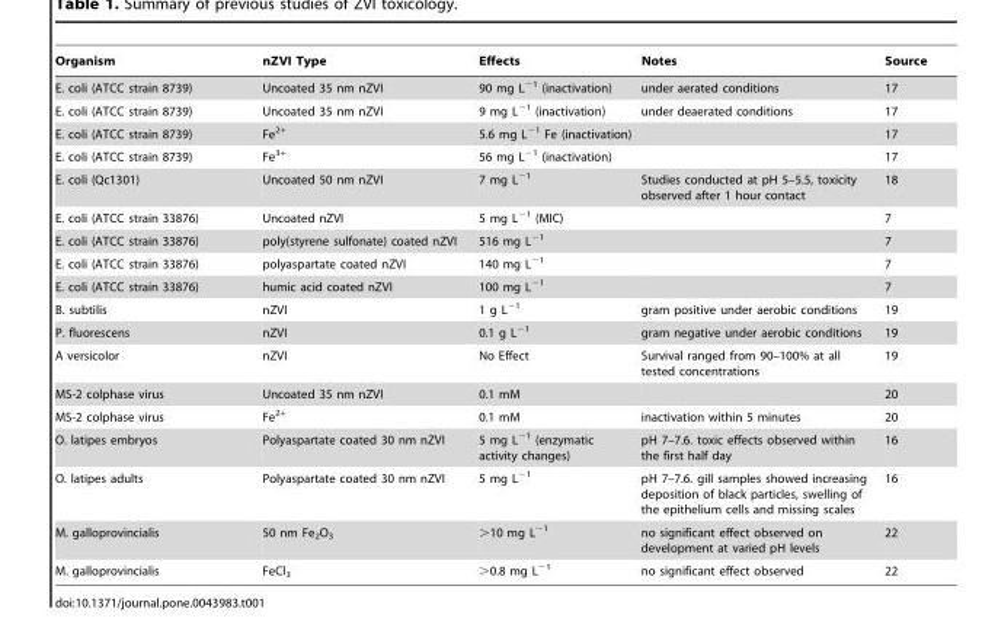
<table><thead><tr><td>Organism</td><td>nZVI Type</td><td>Effects</td><td>Notes</td><td>Source</td></tr></thead><tbody><tr><td>E. coli (ATCC strain 8739)</td><td>Uncoated 35 nm nZVI</td><td>90 mg L<sup>−1</sup> (inactivation)</td><td>under aerated conditions</td><td>17</td></tr><tr><td>E. coli (ATCC strain 8739)</td><td>Uncoated 35 nm nZVI</td><td>9 mg L<sup>−1</sup> (inactivation)</td><td>under deaerated conditions</td><td>17</td></tr><tr><td>E. coli (ATCC strain 8739)</td><td>Fe<sup>2+</sup></td><td>5.6 mg L<sup>−1</sup> Fe (inactivation)</td><td></td><td>17</td></tr><tr><td>E. coli (ATCC strain 8739)</td><td>Fe<sup>3+</sup></td><td>56 mg L<sup>−1</sup> (inactivation)</td><td></td><td>17</td></tr><tr><td>E. coli (Qc1301)</td><td>Uncoated 50 nm nZVI</td><td>7 mg L<sup>−1</sup></td><td>Studies conducted at pH 5–5.5, toxicity observed after 1 hour contact</td><td>18</td></tr><tr><td>E. coli (ATCC strain 33876)</td><td>Uncoated nZVI</td><td>5 mg L<sup>−1</sup> (MIC)</td><td></td><td>7</td></tr><tr><td>E. coli (ATCC strain 33876)</td><td>poly(styrene sulfonate) coated nZVI</td><td>516 mg L<sup>−1</sup></td><td></td><td>7</td></tr><tr><td>E. coli (ATCC strain 33876)</td><td>polyaspartate coated nZVI</td><td>140 mg L<sup>−1</sup></td><td></td><td>7</td></tr><tr><td>E. coli (ATCC strain 33876)</td><td>humic acid coated nZVI</td><td>100 mg L<sup>−1</sup></td><td></td><td>7</td></tr><tr><td>B. subtilis</td><td>nZVI</td><td>1 g L<sup>−1</sup></td><td>gram positive under aerobic conditions</td><td>19</td></tr><tr><td>P. fluorescens</td><td>nZVI</td><td>0.1 g L<sup>−1</sup></td><td>gram negative under aerobic conditions</td><td>19</td></tr><tr><td>A versicolor</td><td>nZVI</td><td>No Effect</td><td>Survival ranged from 90–100% at all tested concentrations</td><td>19</td></tr><tr><td>MS-2 colphase virus</td><td>Uncoated 35 nm nZVI</td><td>0.1 mM</td><td></td><td>20</td></tr><tr><td>MS-2 colphase virus</td><td>Fe<sup>2+</sup></td><td>0.1 mM</td><td>inactivation within 5 minutes</td><td>20</td></tr><tr><td>O. latipes embryos</td><td>Polyaspartate coated 30 nm nZVI</td><td>5 mg L<sup>−1</sup> (enzymatic activity changes)</td><td>pH 7–7.6. toxic effects observed within the first half day</td><td>16</td></tr><tr><td>O. latipes adults</td><td>Polyaspartate coated 30 nm nZVI</td><td>5 mg L<sup>−1</sup></td><td>pH 7–7.6. gill samples showed increasing deposition of black particles, swelling of the epithelium cells and missing scales</td><td>16</td></tr><tr><td>M. galloprovincialis</td><td>50 nm Fe<sub>2</sub>O<sub>3</sub></td><td>&gt;10 mg L<sup>−1</sup></td><td>no significant effect observed on development at varied pH levels</td><td>22</td></tr><tr><td>M. galloprovincialis</td><td>FeCl<sub>3</sub></td><td>&gt;0.8 mg L<sup>−1</sup></td><td>no significant effect observed</td><td>22</td></tr></tbody></table>